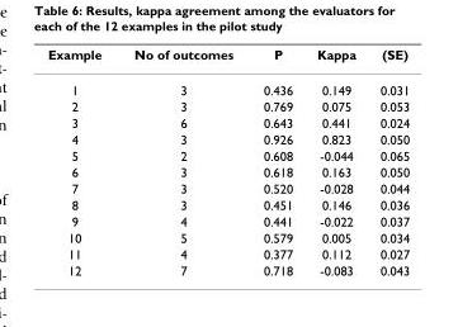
<table><thead><tr><td>Example</td><td>No of outcomes</td><td>P</td><td>Kappa</td><td>(SE)</td></tr></thead><tbody><tr><td>1</td><td>3</td><td>0.436</td><td>0.149</td><td>0.031</td></tr><tr><td>2</td><td>3</td><td>0.769</td><td>0.075</td><td>0.053</td></tr><tr><td>3</td><td>6</td><td>0.643</td><td>0.441</td><td>0.024</td></tr><tr><td>4</td><td>3</td><td>0.926</td><td>0.823</td><td>0.050</td></tr><tr><td>5</td><td>2</td><td>0.608</td><td>-0.044</td><td>0.065</td></tr><tr><td>6</td><td>3</td><td>0.618</td><td>0.163</td><td>0.050</td></tr><tr><td>7</td><td>3</td><td>0.520</td><td>-0.028</td><td>0.044</td></tr><tr><td>8</td><td>3</td><td>0.451</td><td>0.146</td><td>0.036</td></tr><tr><td>9</td><td>4</td><td>0.441</td><td>-0.022</td><td>0.037</td></tr><tr><td>10</td><td>5</td><td>0.579</td><td>0.005</td><td>0.034</td></tr><tr><td>11</td><td>4</td><td>0.377</td><td>0.112</td><td>0.027</td></tr><tr><td>12</td><td>7</td><td>0.718</td><td>-0.083</td><td>0.043</td></tr></tbody></table>